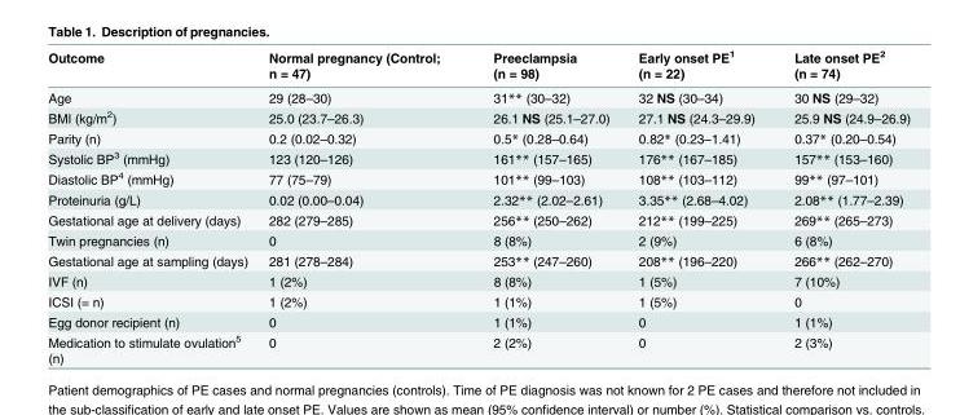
<table><thead><tr><td>Outcome</td><td>Normal pregnancy (Control; n = 47)</td><td>Preeclampsia (n = 98)</td><td>Early onset PE<sup>1</sup> (n = 22)</td><td>Late onset PE<sup>2</sup> (n = 74)</td></tr></thead><tbody><tr><td>Age</td><td>29 (28–30)</td><td>31** (30–32)</td><td>32 NS (30–34)</td><td>30 NS (29–32)</td></tr><tr><td>BMI (kg/m<sup>2</sup>)</td><td>25.0 (23.7–26.3)</td><td>26.1 NS (25.1–27.0)</td><td>27.1 NS (24.3–29.9)</td><td>25.9 NS (24.9–26.9)</td></tr><tr><td>Parity (n)</td><td>0.2 (0.02–0.32)</td><td>0.5* (0.28–0.64)</td><td>0.82* (0.23–1.41)</td><td>0.37* (0.20–0.54)</td></tr><tr><td>Systolic BP<sup>3</sup> (mmHg)</td><td>123 (120–126)</td><td>161** (157–165)</td><td>176** (167–185)</td><td>157** (153–160)</td></tr><tr><td>Diastolic BP<sup>4</sup> (mmHg)</td><td>77 (75–79)</td><td>101** (99–103)</td><td>108** (103–112)</td><td>99** (97–101)</td></tr><tr><td>Proteinuria (g/L)</td><td>0.02 (0.00–0.04)</td><td>2.32** (2.02–2.61)</td><td>3.35** (2.68–4.02)</td><td>2.08** (1.77–2.39)</td></tr><tr><td>Gestational age at delivery (days)</td><td>282 (279–285)</td><td>256** (250–262)</td><td>212** (199–225)</td><td>269** (265–273)</td></tr><tr><td>Twin pregnancies (n)</td><td>0</td><td>8 (8%)</td><td>2 (9%)</td><td>6 (8%)</td></tr><tr><td>Gestational age at sampling (days)</td><td>281 (278–284)</td><td>253** (247–260)</td><td>208** (196–220)</td><td>266** (262–270)</td></tr><tr><td>IVF (n)</td><td>1 (2%)</td><td>8 (8%)</td><td>1 (5%)</td><td>7 (10%)</td></tr><tr><td>ICSI (= n)</td><td>1 (2%)</td><td>1 (1%)</td><td>1 (5%)</td><td>0</td></tr><tr><td>Egg donor recipient (n)</td><td>0</td><td>1 (1%)</td><td>0</td><td>1 (1%)</td></tr><tr><td>Medication to stimulate ovulation<sup>5</sup> (n)</td><td>0</td><td>2 (2%)</td><td>0</td><td>2 (3%)</td></tr></tbody></table>